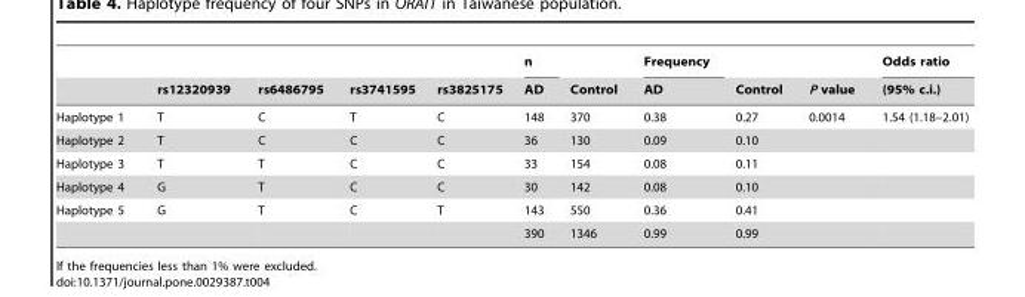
<table><thead><tr><td rowspan="2"></td><td rowspan="2">rs12320939</td><td rowspan="2">rs6486795</td><td rowspan="2">rs3741595</td><td rowspan="2">rs3825175</td><td rowspan="2">n AD</td><td rowspan="2">Control</td><td rowspan="2">Frequency AD</td><td rowspan="2">Control</td><td rowspan="2">P value</td><td rowspan="2">Odds ratio (95% c.i.)</td></tr><tr></tr></thead><tbody><tr><td>Haplotype 1</td><td>T</td><td>C</td><td>T</td><td>C</td><td>148</td><td>370</td><td>0.38</td><td>0.27</td><td>0.0014</td><td>1.54 (1.18–2.01)</td></tr><tr><td>Haplotype 2</td><td>T</td><td>C</td><td>C</td><td>C</td><td>36</td><td>130</td><td>0.09</td><td>0.10</td><td></td><td></td></tr><tr><td>Haplotype 3</td><td>T</td><td>T</td><td>C</td><td>C</td><td>33</td><td>154</td><td>0.08</td><td>0.11</td><td></td><td></td></tr><tr><td>Haplotype 4</td><td>G</td><td>T</td><td>C</td><td>C</td><td>30</td><td>142</td><td>0.08</td><td>0.10</td><td></td><td></td></tr><tr><td rowspan="2">Haplotype 5</td><td>G</td><td>T</td><td>C</td><td>T</td><td>143</td><td>550</td><td>0.36</td><td>0.41</td><td></td><td></td></tr><tr><td></td><td></td><td></td><td></td><td>390</td><td>1346</td><td>0.99</td><td>0.99</td><td></td><td></td></tr></tbody></table>